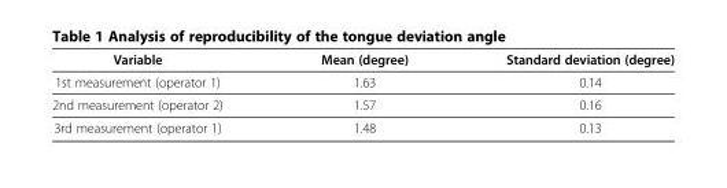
<table><thead><tr><td>Variable</td><td>Mean (degree)</td><td>Standard deviation (degree)</td></tr></thead><tbody><tr><td>1st measurement (operator 1)</td><td>1.63</td><td>0.14</td></tr><tr><td>2nd measurement (operator 2)</td><td>1.57</td><td>0.16</td></tr><tr><td>3rd measurement (operator 1)</td><td>1.48</td><td>0.13</td></tr></tbody></table>